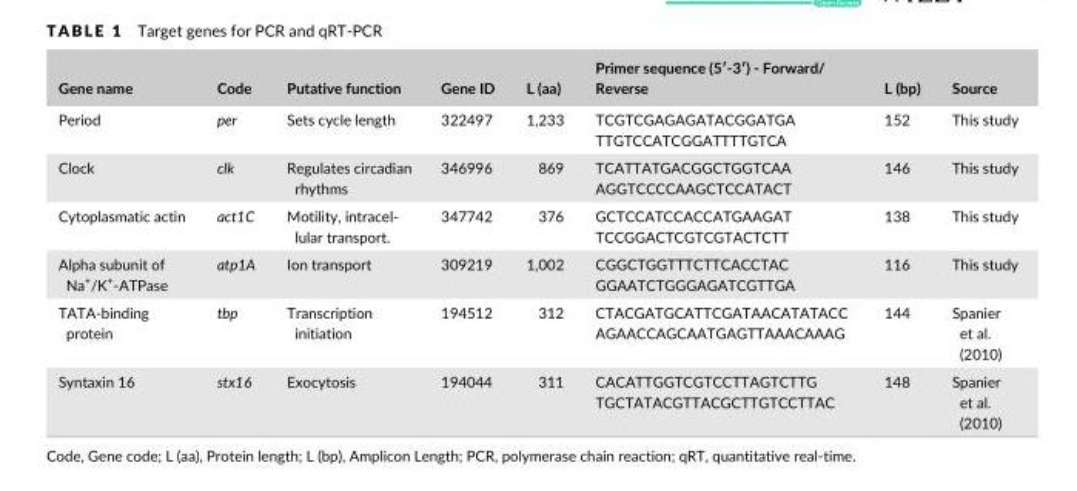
<table><thead><tr><td>Gene name</td><td>Code</td><td>Putative function</td><td>Gene ID</td><td>L (aa)</td><td>Primer sequence (5′- 3′) - Forward/ Reverse</td><td>L (bp)</td><td>Source</td></tr></thead><tbody><tr><td>Period</td><td>per</td><td>Sets cycle length</td><td>322497</td><td>1,233</td><td>TCGTCGAGAGATACGGATGA TTGTCCATCGGATTTTGTCA</td><td>152</td><td>This study</td></tr><tr><td>Clock</td><td>clk</td><td>Regulates circadian rhythms</td><td>346996</td><td>869</td><td>TCATTATGACGGCTGGTCAA AGGTCCCCAAGCTCCATACT</td><td>146</td><td>This study</td></tr><tr><td>Cytoplasmatic actin</td><td>act1C</td><td>Motility, intracel- lular transport.</td><td>347742</td><td>376</td><td>GCTCCATCCACCATGAAGAT TCCGGACTCGTCGTACTCTT</td><td>138</td><td>This study</td></tr><tr><td>Alpha subunit of Na<sup>+</sup>/K<sup>+</sup>- ATPase</td><td>atp1A</td><td>Ion transport</td><td>309219</td><td>1,002</td><td>CGGCTGGTTTCTTCACCTAC GGAATCTGGGAGATCGTTGA</td><td>116</td><td>This study</td></tr><tr><td>TATA- binding protein</td><td>tbp</td><td>Transcription initiation</td><td>194512</td><td>312</td><td>CTACGATGCATTCGATAACATATACC AGAACCAGCAATGAGTTAAACAAAG</td><td>144</td><td>Spanier et al. (2010)</td></tr><tr><td>Syntaxin 16</td><td>stx16</td><td>Exocytosis</td><td>194044</td><td>311</td><td>CACATTGGTCGTCCTTAGTCTTG TGCTATACGTTACGCTTGTCCTTAC</td><td>148</td><td>Spanier et al. (2010)</td></tr></tbody></table>